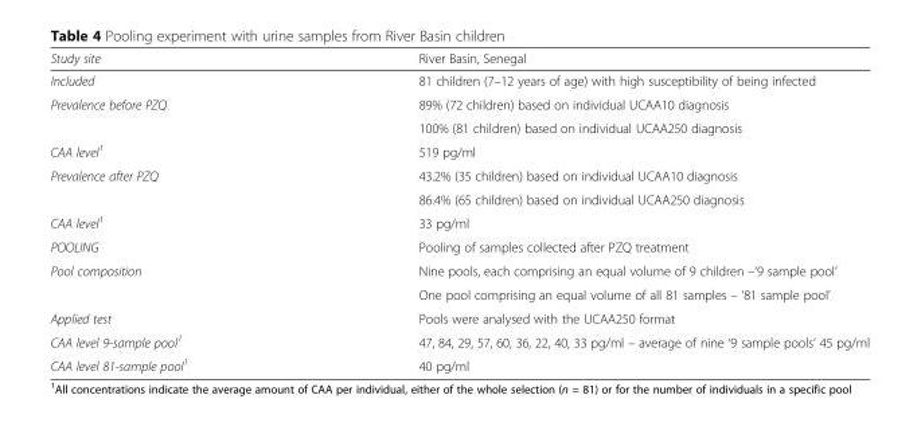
<table><thead><tr><td>Study site</td><td>River Basin, Senegal</td></tr></thead><tbody><tr><td>Included</td><td>81 children (7–12 years of age) with high susceptibility of being infected</td></tr><tr><td rowspan="2">Prevalence before PZQ</td><td>89% (72 children) based on individual UCAA10 diagnosis</td></tr><tr><td>100% (81 children) based on individual UCAA250 diagnosis</td></tr><tr><td>CAA level<sup>1</sup></td><td>519 pg/ml</td></tr><tr><td rowspan="2">Prevalence after PZQ</td><td>43.2% (35 children) based on individual UCAA10 diagnosis</td></tr><tr><td>86.4% (65 children) based on individual UCAA250 diagnosis</td></tr><tr><td>CAA level<sup>1</sup></td><td>33 pg/ml</td></tr><tr><td>POOLING</td><td>Pooling of samples collected after PZQ treatment</td></tr><tr><td rowspan="2">Pool composition</td><td>Nine pools, each comprising an equal volume of 9 children –‘9 sample pool’</td></tr><tr><td>One pool comprising an equal volume of all 81 samples – ‘81 sample pool’</td></tr><tr><td>Applied test</td><td>Pools were analysed with the UCAA250 format</td></tr><tr><td>CAA level 9-sample pool<sup>1</sup></td><td>47, 84, 29, 57, 60, 36, 22, 40, 33 pg/ml – average of nine ‘9 sample pools’ 45 pg/ml</td></tr><tr><td>CAA level 81-sample pool<sup>1</sup></td><td>40 pg/ml</td></tr></tbody></table>